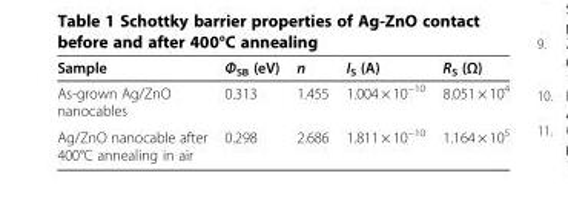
<table><thead><tr><td>Sample</td><td>Φ<sub>SB</sub> (eV)</td><td>n</td><td>I<sub>S</sub> (A)</td><td>R<sub>S</sub> (Ω)</td></tr></thead><tbody><tr><td>As-grown Ag/ZnO nanocables</td><td>0.313</td><td>1.455</td><td>1.004 × 10<sup>−10</sup></td><td>8.051 × 10<sup>4</sup></td></tr><tr><td>Ag/ZnO nanocable after 400°C annealing in air</td><td>0.298</td><td>2.686</td><td>1.811 × 10<sup>−10</sup></td><td>1.164 × 10<sup>5</sup></td></tr></tbody></table>